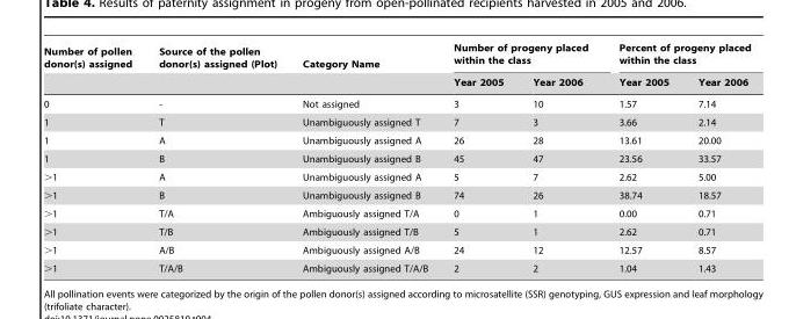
<table><thead><tr><td rowspan="2">Number of pollen donor(s) assigned</td><td rowspan="2">Source of the pollen donor(s) assigned (Plot)</td><td rowspan="2">Category Name</td><td colspan="2">Number of progeny placed within the class</td><td colspan="2">Percent of progeny placed within the class</td></tr><tr><td>Year 2005</td><td>Year 2006</td><td>Year 2005</td><td>Year 2006</td></tr></thead><tbody><tr><td>0</td><td>-</td><td>Not assigned</td><td>3</td><td>10</td><td>1.57</td><td>7.14</td></tr><tr><td>1</td><td>T</td><td>Unambiguously assigned T</td><td>7</td><td>3</td><td>3.66</td><td>2.14</td></tr><tr><td>1</td><td>A</td><td>Unambiguously assigned A</td><td>26</td><td>28</td><td>13.61</td><td>20.00</td></tr><tr><td>1</td><td>B</td><td>Unambiguously assigned B</td><td>45</td><td>47</td><td>23.56</td><td>33.57</td></tr><tr><td>&gt;1</td><td>A</td><td>Unambiguously assigned A</td><td>5</td><td>7</td><td>2.62</td><td>5.00</td></tr><tr><td>&gt;1</td><td>B</td><td>Unambiguously assigned B</td><td>74</td><td>26</td><td>38.74</td><td>18.57</td></tr><tr><td>&gt;1</td><td>T/A</td><td>Ambiguously assigned T/A</td><td>0</td><td>1</td><td>0.00</td><td>0.71</td></tr><tr><td>&gt;1</td><td>T/B</td><td>Ambiguously assigned T/B</td><td>5</td><td>1</td><td>2.62</td><td>0.71</td></tr><tr><td>&gt;1</td><td>A/B</td><td>Ambiguously assigned A/B</td><td>24</td><td>12</td><td>12.57</td><td>8.57</td></tr><tr><td>&gt;1</td><td>T/A/B</td><td>Ambiguously assigned T/A/B</td><td>2</td><td>2</td><td>1.04</td><td>1.43</td></tr></tbody></table>